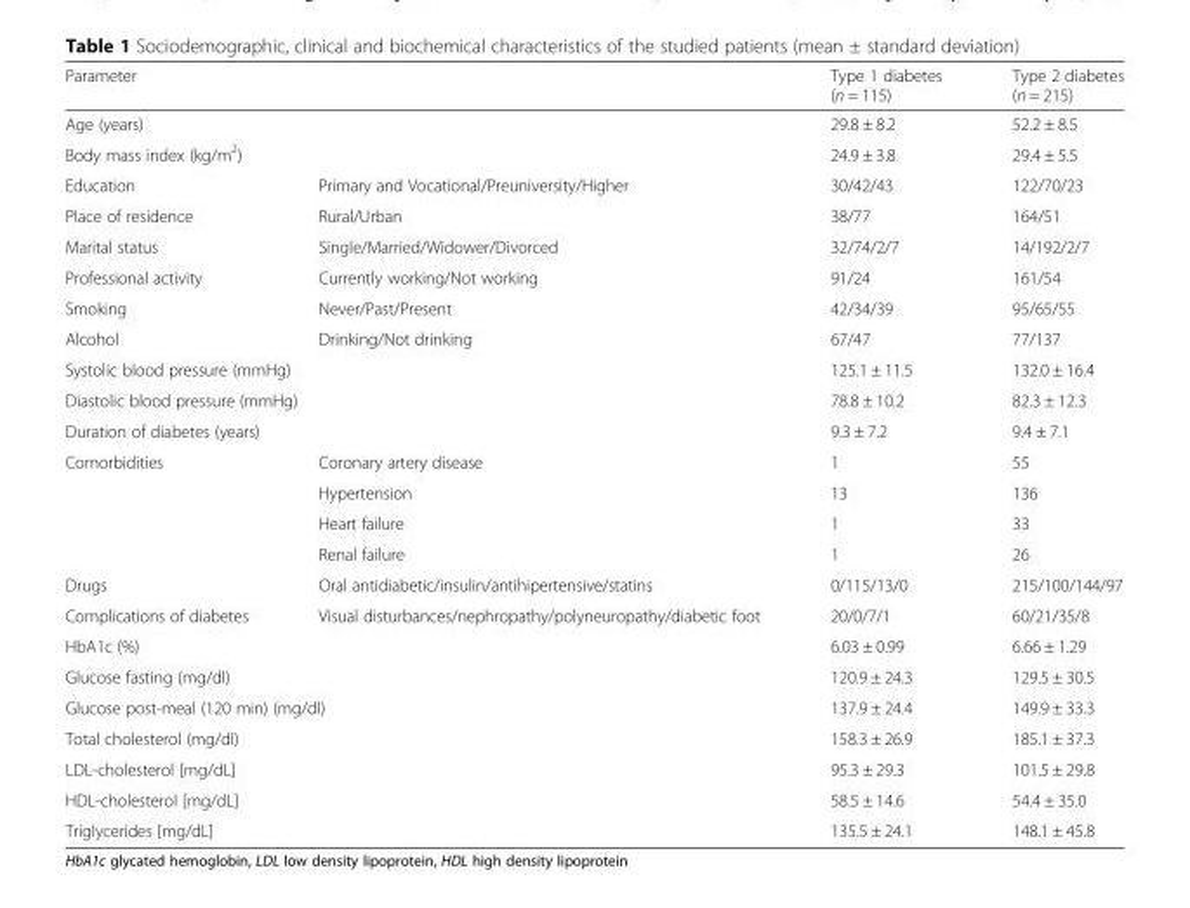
<table><thead><tr><td rowspan="3" colspan="2">Parameter Age (years) Body mass index (kg/m<sup>2</sup>)</td><td rowspan="4">Type 1 diabetes (n = 115) 29.8 ± 8.2 24.9 ± 3.8 30/42/43</td><td rowspan="4">Type 2 diabetes (n = 215) 52.2 ± 8.5 29.4 ± 5.5 122/70/23</td></tr><tr></tr><tr></tr><tr><td>Education</td><td>Primary and Vocational/Preuniversity/Higher</td></tr></thead><tbody><tr><td>Place of residence</td><td>Rural/Urban</td><td>38/77</td><td>164/51</td></tr><tr><td>Marital status</td><td>Single/Married/Widower/Divorced</td><td>32/74/2/7</td><td>14/192/2/7</td></tr><tr><td>Professional activity</td><td>Currently working/Not working</td><td>91/24</td><td>161/54</td></tr><tr><td>Smoking</td><td>Never/Past/Present</td><td>42/34/39</td><td>95/65/55</td></tr><tr><td>Alcohol</td><td>Drinking/Not drinking</td><td>67/47</td><td>77/137</td></tr><tr><td colspan="2">Systolic blood pressure (mmHg)</td><td>125.1 ± 11.5</td><td>132.0 ± 16.4</td></tr><tr><td colspan="2">Diastolic blood pressure (mmHg)</td><td>78.8 ± 10.2</td><td>82.3 ± 12.3</td></tr><tr><td colspan="2">Duration of diabetes (years)</td><td>9.3 ± 7.2</td><td>9.4 ± 7.1</td></tr><tr><td rowspan="4">Comorbidities</td><td>Coronary artery disease</td><td>1</td><td>55</td></tr><tr><td>Hypertension</td><td>13</td><td>136</td></tr><tr><td>Heart failure</td><td>1</td><td>33</td></tr><tr><td>Renal failure</td><td>1</td><td>26</td></tr><tr><td>Drugs</td><td>Oral antidiabetic/insulin/antihipertensive/statins</td><td>0/115/13/0</td><td>215/100/144/97</td></tr><tr><td>Complications of diabetes</td><td>Visual disturbances/nephropathy/polyneuropathy/diabetic foot</td><td>20/0/7/1</td><td>60/21/35/8</td></tr><tr><td colspan="2">HbA1c (%)</td><td>6.03 ± 0.99</td><td>6.66 ± 1.29</td></tr><tr><td colspan="2">Glucose fasting (mg/dl)</td><td>120.9 ± 24.3</td><td>129.5 ± 30.5</td></tr><tr><td colspan="2">Glucose post-meal (120 min) (mg/dl)</td><td>137.9 ± 24.4</td><td>149.9 ± 33.3</td></tr><tr><td colspan="2">Total cholesterol (mg/dl)</td><td>158.3 ± 26.9</td><td>185.1 ± 37.3</td></tr><tr><td colspan="2">LDL-cholesterol [mg/dL]</td><td>95.3 ± 29.3</td><td>101.5 ± 29.8</td></tr><tr><td colspan="2">HDL-cholesterol [mg/dL]</td><td>58.5 ± 14.6</td><td>54.4 ± 35.0</td></tr><tr><td colspan="2">Triglycerides [mg/dL]</td><td>135.5 ± 24.1</td><td>148.1 ± 45.8</td></tr></tbody></table>